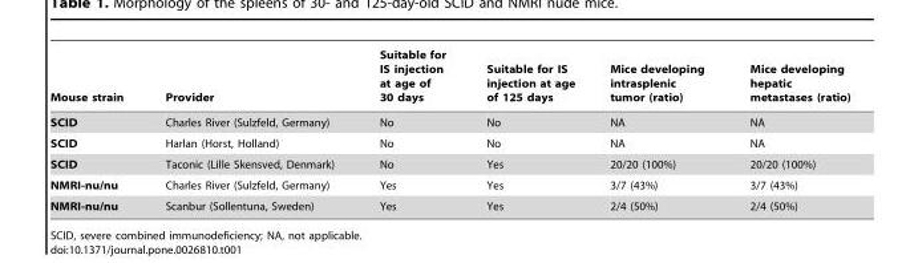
<table><thead><tr><td>Mouse strain</td><td>Provider</td><td>Suitable for IS injection at age of 30 days</td><td>Suitable for IS injection at age of 125 days</td><td>Mice developing intrasplenic tumor (ratio)</td><td>Mice developing hepatic metastases (ratio)</td></tr></thead><tbody><tr><td>SCID</td><td>Charles River (Sulzfeld, Germany)</td><td>No</td><td>No</td><td>NA</td><td>NA</td></tr><tr><td>SCID</td><td>Harlan (Horst, Holland)</td><td>No</td><td>No</td><td>NA</td><td>NA</td></tr><tr><td>SCID</td><td>Taconic (Lille Skensved, Denmark)</td><td>No</td><td>Yes</td><td>20/20 (100%)</td><td>20/20 (100%)</td></tr><tr><td>NMRI-nu/nu</td><td>Charles River (Sulzfeld, Germany)</td><td>Yes</td><td>Yes</td><td>3/7 (43%)</td><td>3/7 (43%)</td></tr><tr><td>NMRI-nu/nu</td><td>Scanbur (Sollentuna, Sweden)</td><td>Yes</td><td>Yes</td><td>2/4 (50%)</td><td>2/4 (50%)</td></tr></tbody></table>